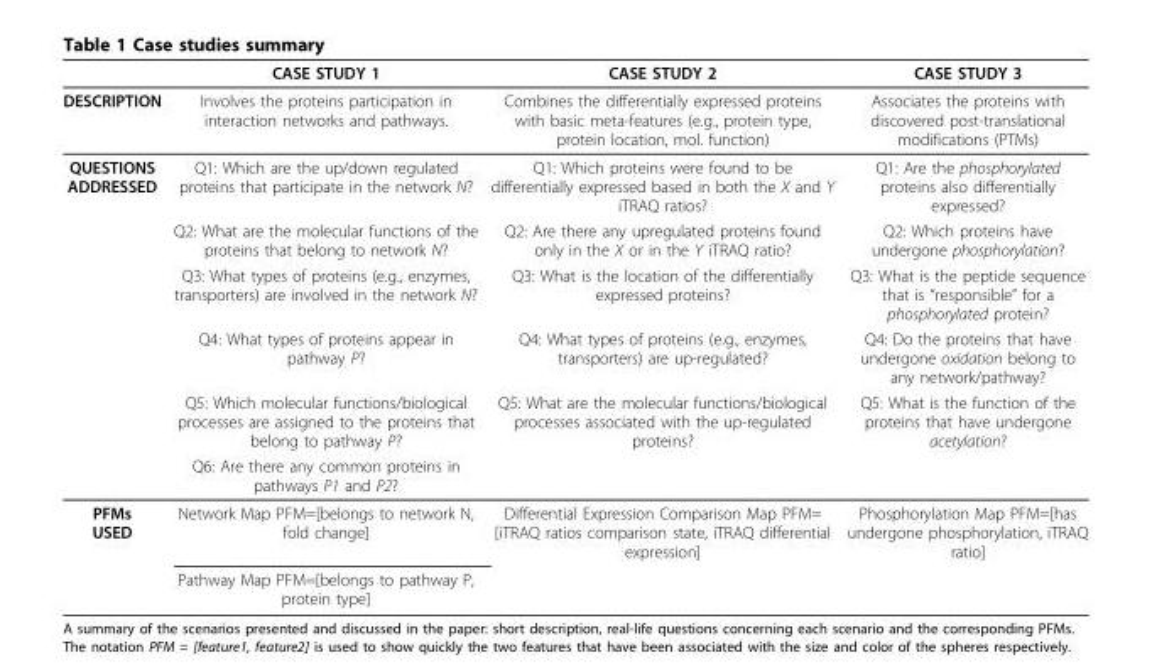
<table><thead><tr><td></td><td>CASE STUDY 1</td><td>CASE STUDY 2</td><td>CASE STUDY 3</td></tr></thead><tbody><tr><td>DESCRIPTION</td><td>Involves the proteins participation in interaction networks and pathways.</td><td>Combines the differentially expressed proteins with basic meta-features (e.g., protein type, protein location, mol. function)</td><td>Associates the proteins with discovered post-translational modifications (PTMs)</td></tr><tr><td rowspan="6">QUESTIONS ADDRESSED</td><td>Q1: Which are the up/down regulated proteins that participate in the network N?</td><td>Q1: Which proteins were found to be differentially expressed based in both the X and Y iTRAQ ratios?</td><td>Q1: Are the phosphorylated proteins also differentially expressed?</td></tr><tr><td>Q2: What are the molecular functions of the proteins that belong to network N?</td><td>Q2: Are there any upregulated proteins found only in the X or in the Y iTRAQ ratio?</td><td>Q2: Which proteins have undergone phosphorylation?</td></tr><tr><td>Q3: What types of proteins (e.g., enzymes, transporters) are involved in the network N?</td><td>Q3: What is the location of the differentially expressed proteins?</td><td>Q3: What is the peptide sequence that is “responsible” for a phosphorylated protein?</td></tr><tr><td>Q4: What types of proteins appear in pathway P?</td><td>Q4: What types of proteins (e.g., enzymes, transporters) are up-regulated?</td><td>Q4: Do the proteins that have undergone oxidation belong to any network/pathway?</td></tr><tr><td>Q5: Which molecular functions/biological processes are assigned to the proteins that belong to pathway P?</td><td>Q5: What are the molecular functions/biological processes associated with the up-regulated proteins?</td><td>Q5: What is the function of the proteins that have undergone acetylation?</td></tr><tr><td>Q6: Are there any common proteins in pathways P1 and P2?</td><td></td><td></td></tr><tr><td rowspan="2">PFMs USED</td><td>Network Map PFM=[belongs to network N, fold change]</td><td>Differential Expression Comparison Map PFM= [iTRAQ ratios comparison state, iTRAQ differential expression]</td><td>Phosphorylation Map PFM=[has undergone phosphorylation, iTRAQ ratio]</td></tr><tr><td>Pathway Map PFM=[belongs to pathway P, protein type]</td><td></td><td></td></tr></tbody></table>